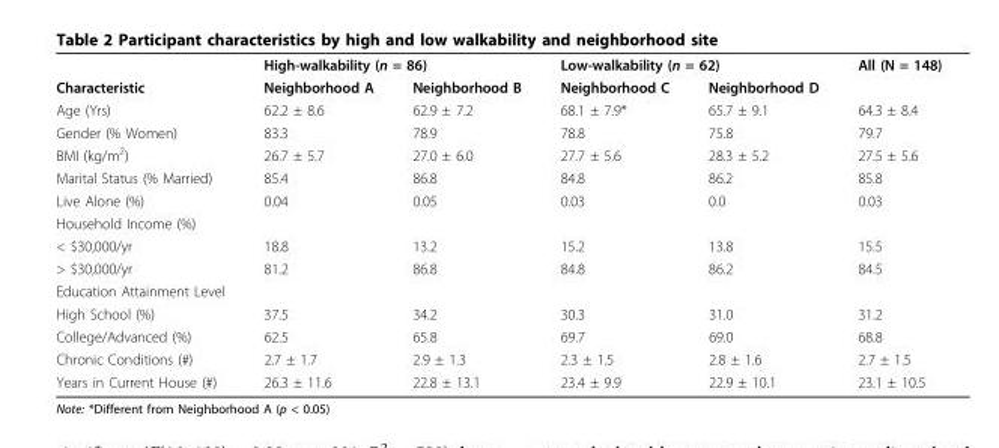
<table><thead><tr><td rowspan="2">Characteristic</td><td colspan="2">High-walkability (n = 86)</td><td colspan="2">Low-walkability (n = 62)</td><td rowspan="2">All (N = 148)</td></tr><tr><td>Neighborhood A</td><td>Neighborhood B</td><td>Neighborhood C</td><td>Neighborhood D</td></tr></thead><tbody><tr><td>Age (Yrs)</td><td>62.2 ± 8.6</td><td>62.9 ± 7.2</td><td>68.1 ± 7.9*</td><td>65.7 ± 9.1</td><td>64.3 ± 8.4</td></tr><tr><td>Gender (% Women)</td><td>83.3</td><td>78.9</td><td>78.8</td><td>75.8</td><td>79.7</td></tr><tr><td>BMI (kg/m<sup>2</sup>)</td><td>26.7 ± 5.7</td><td>27.0 ± 6.0</td><td>27.7 ± 5.6</td><td>28.3 ± 5.2</td><td>27.5 ± 5.6</td></tr><tr><td>Marital Status (% Married)</td><td>85.4</td><td>86.8</td><td>84.8</td><td>86.2</td><td>85.8</td></tr><tr><td>Live Alone (%)</td><td>0.04</td><td>0.05</td><td>0.03</td><td>0.0</td><td>0.03</td></tr><tr><td colspan="6">Household Income (%)</td></tr><tr><td>&lt; $30,000/yr</td><td>18.8</td><td>13.2</td><td>15.2</td><td>13.8</td><td>15.5</td></tr><tr><td>&gt; $30,000/yr</td><td>81.2</td><td>86.8</td><td>84.8</td><td>86.2</td><td>84.5</td></tr><tr><td colspan="6">Education Attainment Level</td></tr><tr><td>High School (%)</td><td>37.5</td><td>34.2</td><td>30.3</td><td>31.0</td><td>31.2</td></tr><tr><td>College/Advanced (%)</td><td>62.5</td><td>65.8</td><td>69.7</td><td>69.0</td><td>68.8</td></tr><tr><td>Chronic Conditions (#)</td><td>2.7 ± 1.7</td><td>2.9 ± 1.3</td><td>2.3 ± 1.5</td><td>2.8 ± 1.6</td><td>2.7 ± 1.5</td></tr><tr><td>Years in Current House (#)</td><td>26.3 ± 11.6</td><td>22.8 ± 13.1</td><td>23.4 ± 9.9</td><td>22.9 ± 10.1</td><td>23.1 ± 10.5</td></tr></tbody></table>